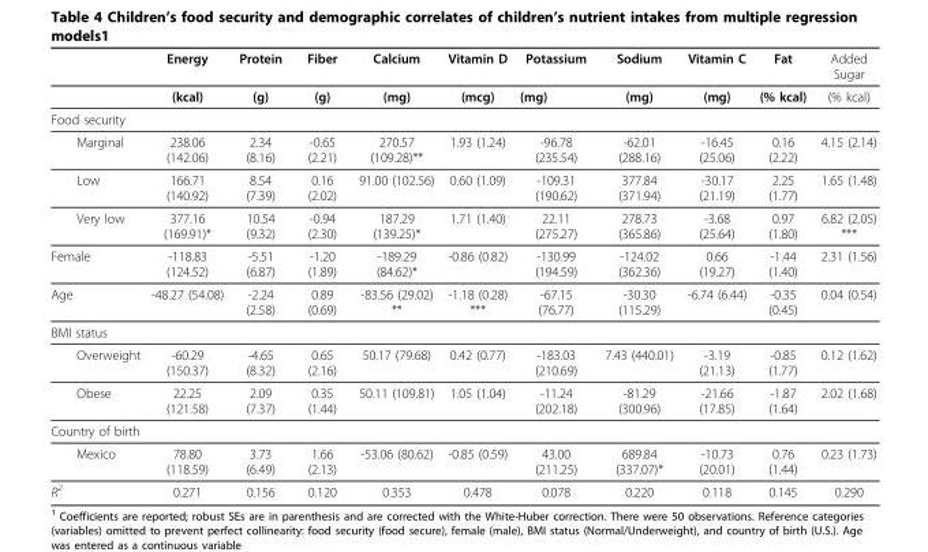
<table><thead><tr><td></td><td>Energy</td><td>Protein</td><td>Fiber</td><td>Calcium</td><td>Vitamin D</td><td>Potassium</td><td>Sodium</td><td>Vitamin C</td><td>Fat</td><td>Added Sugar</td></tr></thead><tbody><tr><td></td><td>(kcal)</td><td>(g)</td><td>(g)</td><td>(mg)</td><td>(mcg)</td><td>(mg)</td><td>(mg)</td><td>(mg)</td><td>(% kcal)</td><td>(% kcal)</td></tr><tr><td colspan="11">Food security</td></tr><tr><td>Marginal</td><td>238.06 (142.06)</td><td>2.34 (8.16)</td><td>-0.65 (2.21)</td><td>270.57 (109.28)**</td><td>1.93 (1.24)</td><td>-96.78 (235.54)</td><td>-62.01 (288.16)</td><td>-16.45 (25.06)</td><td>0.16 (2.22)</td><td>4.15 (2.14)</td></tr><tr><td>Low</td><td>166.71 (140.92)</td><td>8.54 (7.39)</td><td>0.16 (2.02)</td><td>91.00 (102.56)</td><td>0.60 (1.09)</td><td>-109.31 (190.62)</td><td>377.84 (371.94)</td><td>-30.17 (21.19)</td><td>2.25 (1.77)</td><td>1.65 (1.48)</td></tr><tr><td>Very low</td><td>377.16 (169.91)*</td><td>10.54 (9.32)</td><td>-0.94 (2.30)</td><td>187.29 (139.25)*</td><td>1.71 (1.40)</td><td>22.11 (275.27)</td><td>278.73 (365.86)</td><td>-3.68 (25.64)</td><td>0.97 (1.80)</td><td>6.82 (2.05) ***</td></tr><tr><td>Female</td><td>-118.83 (124.52)</td><td>-5.51 (6.87)</td><td>-1.20 (1.89)</td><td>-189.29 (84.62)*</td><td>-0.86 (0.82)</td><td>-130.99 (194.59)</td><td>-124.02 (362.36)</td><td>0.66 (19.27)</td><td>-1.44 (1.40)</td><td>2.31 (1.56)</td></tr><tr><td>Age</td><td>-48.27 (54.08)</td><td>-2.24 (2.58)</td><td>0.89 (0.69)</td><td>-83.56 (29.02) **</td><td>-1.18 (0.28) ***</td><td>-67.15 (76.77)</td><td>-30.30 (115.29)</td><td>-6.74 (6.44)</td><td>-0.35 (0.45)</td><td>0.04 (0.54)</td></tr><tr><td colspan="11">BMI status</td></tr><tr><td>Overweight</td><td>-60.29 (150.37)</td><td>-4.65 (8.32)</td><td>0.65 (2.16)</td><td>50.17 (79.68)</td><td>0.42 (0.77)</td><td>-183.03 (210.69)</td><td>7.43 (440.01)</td><td>-3.19 (21.13)</td><td>-0.85 (1.77)</td><td>0.12 (1.62)</td></tr><tr><td>Obese</td><td>22.25 (121.58)</td><td>2.09 (7.37)</td><td>0.35 (1.44)</td><td>50.11 (109.81)</td><td>1.05 (1.04)</td><td>-11.24 (202.18)</td><td>-81.29 (300.96)</td><td>-21.66 (17.85)</td><td>-1.87 (1.64)</td><td>2.02 (1.68)</td></tr><tr><td colspan="11">Country of birth</td></tr><tr><td>Mexico</td><td>78.80 (118.59)</td><td>3.73 (6.49)</td><td>1.66 (2.13)</td><td>-53.06 (80.62)</td><td>-0.85 (0.59)</td><td>43.00 (211.25)</td><td>689.84 (337.07)*</td><td>-10.73 (20.01)</td><td>0.76 (1.44)</td><td>0.23 (1.73)</td></tr><tr><td>R<sup>2</sup></td><td>0.271</td><td>0.156</td><td>0.120</td><td>0.353</td><td>0.478</td><td>0.078</td><td>0.220</td><td>0.118</td><td>0.145</td><td>0.290</td></tr></tbody></table>